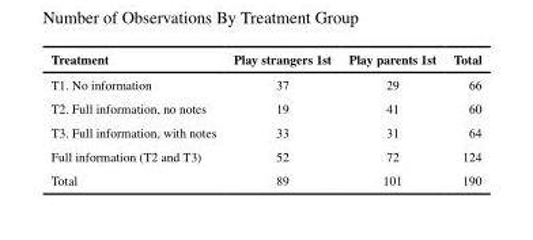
<table><thead><tr><td>Treatment</td><td>Play strangers 1st</td><td>Play parents 1st</td><td>Total</td></tr></thead><tbody><tr><td>T1. No information</td><td>37</td><td>29</td><td>66</td></tr><tr><td>T2. Full information, no notes</td><td>19</td><td>41</td><td>60</td></tr><tr><td>T3. Full information, with notes</td><td>33</td><td>31</td><td>64</td></tr><tr><td>Full information (T2 and T3)</td><td>52</td><td>72</td><td>124</td></tr><tr><td>Total</td><td>89</td><td>101</td><td>190</td></tr></tbody></table>